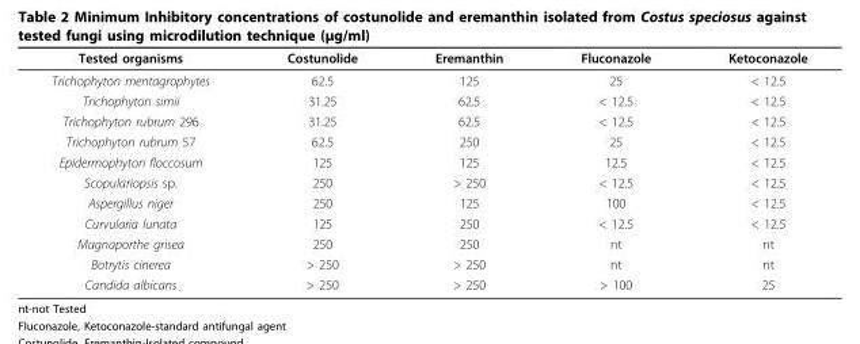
<table><thead><tr><td>Tested organisms</td><td>Costunolide</td><td>Eremanthin</td><td>Fluconazole</td><td>Ketoconazole</td></tr></thead><tbody><tr><td>Trichophyton mentagrophytes</td><td>62.5</td><td>125</td><td>25</td><td>&lt; 12.5</td></tr><tr><td>Trichophyton simii</td><td>31.25</td><td>62.5</td><td>&lt; 12.5</td><td>&lt; 12.5</td></tr><tr><td>Trichophyton rubrum 296</td><td>31.25</td><td>62.5</td><td>&lt; 12.5</td><td>&lt; 12.5</td></tr><tr><td>Trichophyton rubrum 57</td><td>62.5</td><td>250</td><td>25</td><td>&lt; 12.5</td></tr><tr><td>Epidermophyton floccosum</td><td>125</td><td>125</td><td>12.5</td><td>&lt; 12.5</td></tr><tr><td>Scopulariopsis sp.</td><td>250</td><td>&gt; 250</td><td>&lt; 12.5</td><td>&lt; 12.5</td></tr><tr><td>Aspergillus niger</td><td>250</td><td>125</td><td>100</td><td>&lt; 12.5</td></tr><tr><td>Curvularia lunata</td><td>125</td><td>250</td><td>&lt; 12.5</td><td>&lt; 12.5</td></tr><tr><td>Magnaporthe grisea</td><td>250</td><td>250</td><td>nt</td><td>nt</td></tr><tr><td>Botrytis cinerea</td><td>&gt; 250</td><td>&gt; 250</td><td>nt</td><td>nt</td></tr><tr><td>Candida albicans</td><td>&gt; 250</td><td>&gt; 250</td><td>&gt; 100</td><td>25</td></tr></tbody></table>